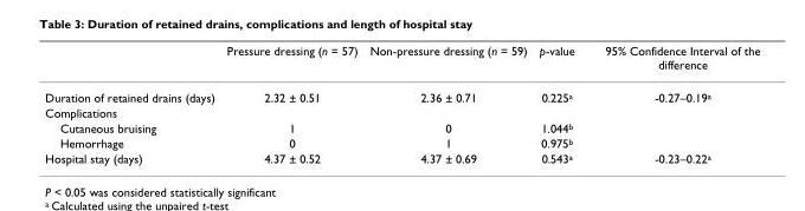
<table><thead><tr><td></td><td>Pressure dressing (n = 57)</td><td>Non-pressure dressing (n = 59)</td><td>p-value</td><td>95% Confidence Interval of the difference</td></tr></thead><tbody><tr><td>Duration of retained drains (days)</td><td>2.32 ± 0.51</td><td>2.36 ± 0.71</td><td>0.225<sup>a</sup></td><td>-0.27–0.19<sup>a</sup></td></tr><tr><td colspan="5">Complications</td></tr><tr><td>Cutaneous bruising</td><td>1</td><td>0</td><td>1.044<sup>b</sup></td><td></td></tr><tr><td>Hemorrhage</td><td>0</td><td>1</td><td>0.975<sup>b</sup></td><td></td></tr><tr><td>Hospital stay (days)</td><td>4.37 ± 0.52</td><td>4.37 ± 0.69</td><td>0.543<sup>a</sup></td><td>-0.23–0.22<sup>a</sup></td></tr></tbody></table>